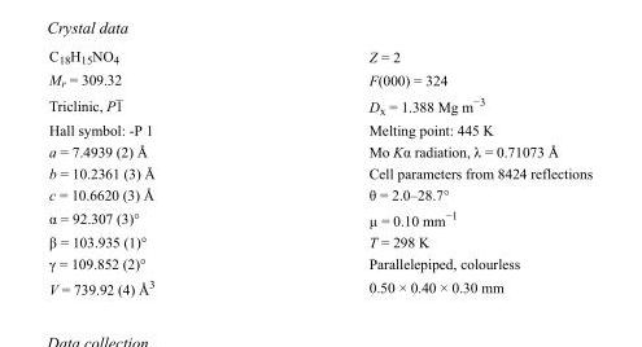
<table><tbody><tr><td>C<sub>18</sub>H<sub>15</sub>NO<sub>4</sub></td><td>Z = 2</td></tr><tr><td>M<sub>r</sub> = 309.32</td><td>F(000) = 324</td></tr><tr><td>Triclinic, P1</td><td>D<sub>x</sub> = 1.388 Mg m<sup>−3</sup></td></tr><tr><td>Hall symbol: -P 1</td><td>Melting point: 445 K</td></tr><tr><td>a = 7.4939 (2) Å</td><td>Mo Kα radiation, λ = 0.71073 Å</td></tr><tr><td>b = 10.2361 (3) Å</td><td>Cell parameters from 8424 reflections</td></tr><tr><td>c = 10.6620 (3) Å</td><td>θ = 2.0–28.7°</td></tr><tr><td>α = 92.307 (3)°</td><td>µ = 0.10 mm<sup>−1</sup></td></tr><tr><td>β = 103.935 (1)°</td><td>T = 298 K</td></tr><tr><td>γ = 109.852 (2)°</td><td>Parallelepiped, colourless</td></tr><tr><td>V = 739.92 (4) Å<sup>3</sup></td><td>0.50 × 0.40 × 0.30 mm</td></tr></tbody></table>